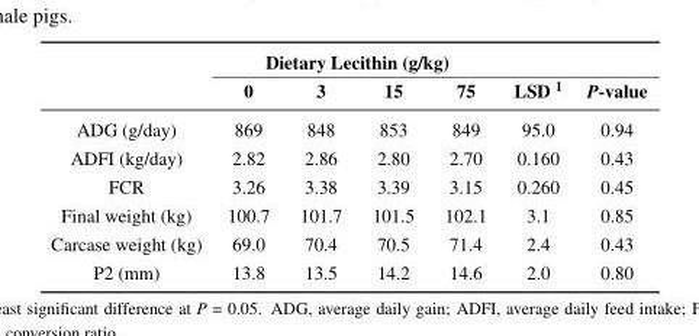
<table><thead><tr><td rowspan="2"></td><td colspan="4">Dietary Lecithin (g/kg)</td><td rowspan="2">LSD <sup>1</sup></td><td rowspan="2">P-value</td></tr><tr><td>0</td><td>3</td><td>15</td><td>75</td></tr></thead><tbody><tr><td>ADG (g/day)</td><td>869</td><td>848</td><td>853</td><td>849</td><td>95.0</td><td>0.94</td></tr><tr><td>ADFI (kg/day)</td><td>2.82</td><td>2.86</td><td>2.80</td><td>2.70</td><td>0.160</td><td>0.43</td></tr><tr><td>FCR</td><td>3.26</td><td>3.38</td><td>3.39</td><td>3.15</td><td>0.260</td><td>0.45</td></tr><tr><td>Final weight (kg)</td><td>100.7</td><td>101.7</td><td>101.5</td><td>102.1</td><td>3.1</td><td>0.85</td></tr><tr><td>Carcase weight (kg)</td><td>69.0</td><td>70.4</td><td>70.5</td><td>71.4</td><td>2.4</td><td>0.43</td></tr><tr><td>P2 (mm)</td><td>13.8</td><td>13.5</td><td>14.2</td><td>14.6</td><td>2.0</td><td>0.80</td></tr></tbody></table>